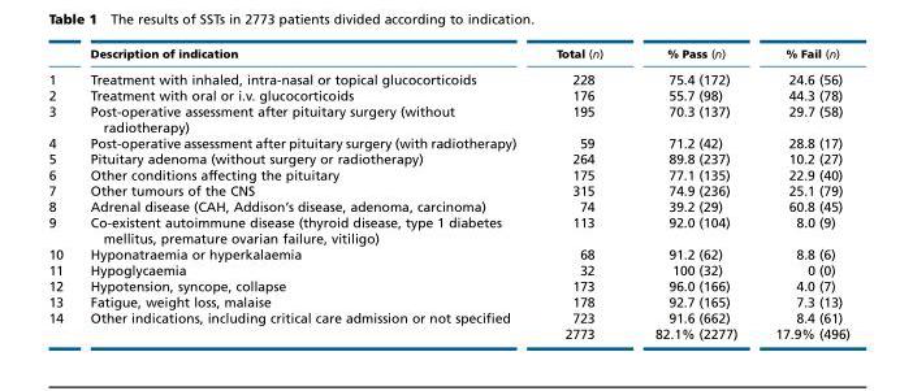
<table><thead><tr><td></td><td>Description of indication</td><td>Total (n)</td><td>% Pass (n)</td><td>% Fail (n)</td></tr></thead><tbody><tr><td>1</td><td>Treatment with inhaled, intra-nasal or topical glucocorticoids</td><td>228</td><td>75.4 (172)</td><td>24.6 (56)</td></tr><tr><td>2</td><td>Treatment with oral or i.v. glucocorticoids</td><td>176</td><td>55.7 (98)</td><td>44.3 (78)</td></tr><tr><td>3</td><td>Post-operative assessment after pituitary surgery (without radiotherapy)</td><td>195</td><td>70.3 (137)</td><td>29.7 (58)</td></tr><tr><td>4</td><td>Post-operative assessment after pituitary surgery (with radiotherapy)</td><td>59</td><td>71.2 (42)</td><td>28.8 (17)</td></tr><tr><td>5</td><td>Pituitary adenoma (without surgery or radiotherapy)</td><td>264</td><td>89.8 (237)</td><td>10.2 (27)</td></tr><tr><td>6</td><td>Other conditions affecting the pituitary</td><td>175</td><td>77.1 (135)</td><td>22.9 (40)</td></tr><tr><td>7</td><td>Other tumours of the CNS</td><td>315</td><td>74.9 (236)</td><td>25.1 (79)</td></tr><tr><td>8</td><td>Adrenal disease (CAH, Addison’s disease, adenoma, carcinoma)</td><td>74</td><td>39.2 (29)</td><td>60.8 (45)</td></tr><tr><td>9</td><td>Co-existent autoimmune disease (thyroid disease, type 1 diabetes mellitus, premature ovarian failure, vitiligo)</td><td>113</td><td>92.0 (104)</td><td>8.0 (9)</td></tr><tr><td>10</td><td>Hyponatraemia or hyperkalaemia</td><td>68</td><td>91.2 (62)</td><td>8.8 (6)</td></tr><tr><td>11</td><td>Hypoglycaemia</td><td>32</td><td>100 (32)</td><td>0 (0)</td></tr><tr><td>12</td><td>Hypotension, syncope, collapse</td><td>173</td><td>96.0 (166)</td><td>4.0 (7)</td></tr><tr><td>13</td><td>Fatigue, weight loss, malaise</td><td>178</td><td>92.7 (165)</td><td>7.3 (13)</td></tr><tr><td rowspan="2">14</td><td>Other indications, including critical care admission or not specified</td><td>723</td><td>91.6 (662)</td><td>8.4 (61)</td></tr><tr><td></td><td>2773</td><td>82.1% (2277)</td><td>17.9% (496)</td></tr></tbody></table>